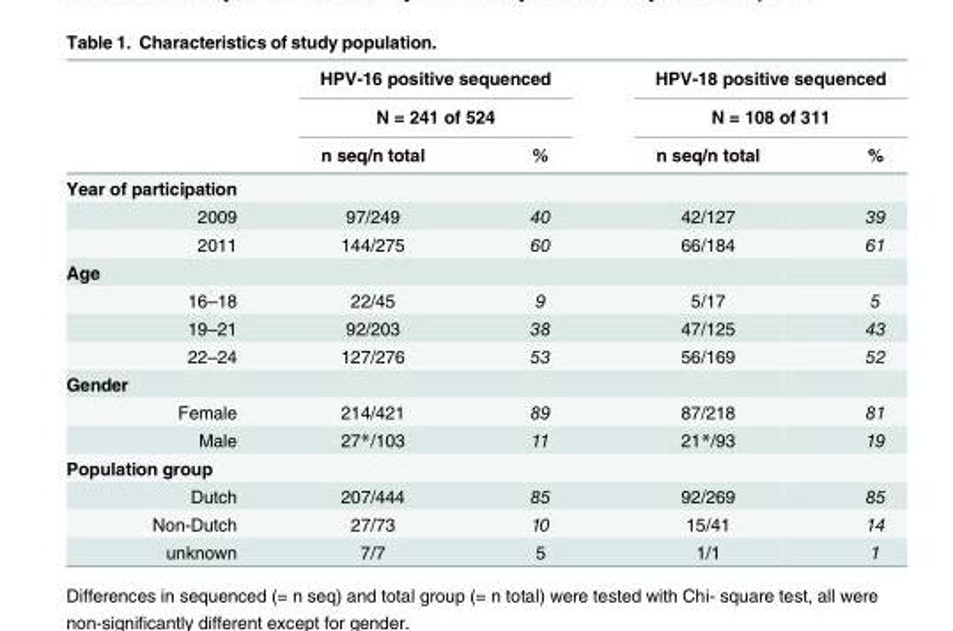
<table><thead><tr><td rowspan="3"></td><td rowspan="2" colspan="2">HPV-16 positive sequenced N = 241 of 524</td><td rowspan="2" colspan="2">HPV-18 positive sequenced N = 108 of 311</td></tr><tr></tr><tr><td>n seq/n total</td><td>%</td><td>n seq/n total</td><td>%</td></tr></thead><tbody><tr><td colspan="5">Year of participation</td></tr><tr><td>2009</td><td>97/249</td><td>40</td><td>42/127</td><td>39</td></tr><tr><td>2011</td><td>144/275</td><td>60</td><td>66/184</td><td>61</td></tr><tr><td colspan="5">Age</td></tr><tr><td>16–18</td><td>22/45</td><td>9</td><td>5/17</td><td>5</td></tr><tr><td>19–21</td><td>92/203</td><td>38</td><td>47/125</td><td>43</td></tr><tr><td>22–24</td><td>127/276</td><td>53</td><td>56/169</td><td>52</td></tr><tr><td colspan="5">Gender</td></tr><tr><td>Female</td><td>214/421</td><td>89</td><td>87/218</td><td>81</td></tr><tr><td>Male</td><td>27*/103</td><td>11</td><td>21*/93</td><td>19</td></tr><tr><td colspan="5">Population group</td></tr><tr><td>Dutch</td><td>207/444</td><td>85</td><td>92/269</td><td>85</td></tr><tr><td>Non-Dutch</td><td>27/73</td><td>10</td><td>15/41</td><td>14</td></tr><tr><td>unknown</td><td>7/7</td><td>5</td><td>1/1</td><td>1</td></tr></tbody></table>